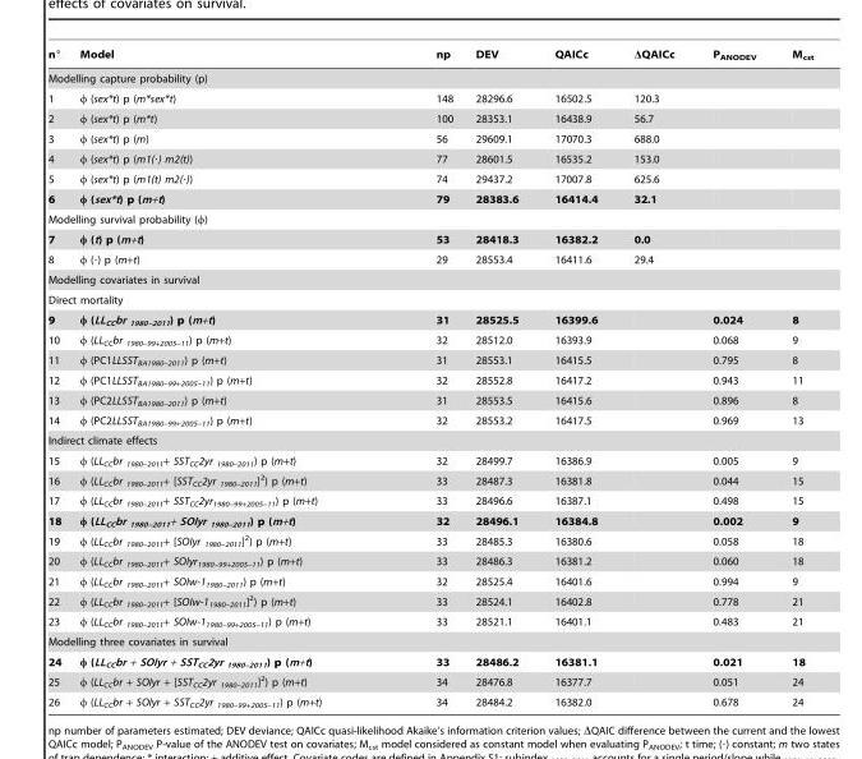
<table><thead><tr><td>n°</td><td>Model</td><td>np</td><td>DEV</td><td>QAICc</td><td>ΔQAICc</td><td>P<sub>ANODEV</sub></td><td>M<sub>cst</sub></td></tr></thead><tbody><tr><td colspan="8">Modelling capture probability (p)</td></tr><tr><td>1</td><td>φ (sex*t) p (m*sex*t)</td><td>148</td><td>28296.6</td><td>16502.5</td><td>120.3</td><td></td><td></td></tr><tr><td>2</td><td>φ (sex*t) p (m*t)</td><td>100</td><td>28353.1</td><td>16438.9</td><td>56.7</td><td></td><td></td></tr><tr><td>3</td><td>φ (sex*t) p (m)</td><td>56</td><td>29609.1</td><td>17070.3</td><td>688.0</td><td></td><td></td></tr><tr><td>4</td><td>φ (sex*t) p (m1(·) m2(t))</td><td>77</td><td>28601.5</td><td>16535.2</td><td>153.0</td><td></td><td></td></tr><tr><td>5</td><td>φ (sex*t) p (m1(t) m2(·))</td><td>74</td><td>29437.2</td><td>17007.8</td><td>625.6</td><td></td><td></td></tr><tr><td>6</td><td>φ (sex*t) p (m+t)</td><td>79</td><td>28383.6</td><td>16414.4</td><td>32.1</td><td></td><td></td></tr><tr><td colspan="8">Modelling survival probability (φ)</td></tr><tr><td>7</td><td>φ (t) p (m+t)</td><td>53</td><td>28418.3</td><td>16382.2</td><td>0.0</td><td></td><td></td></tr><tr><td>8</td><td>φ (·) p (m+t)</td><td>29</td><td>28553.4</td><td>16411.6</td><td>29.4</td><td></td><td></td></tr><tr><td colspan="8">Modelling covariates in survival</td></tr><tr><td colspan="8">Direct mortality</td></tr><tr><td>9</td><td>φ (LL<sub>CC</sub>br <sub>1980–2011</sub>) p (m+t)</td><td>31</td><td>28525.5</td><td>16399.6</td><td></td><td>0.024</td><td>8</td></tr><tr><td>10</td><td>φ (LL<sub>CC</sub>br <sub>1980–99+2005–11</sub>) p (m+t)</td><td>32</td><td>28512.0</td><td>16393.9</td><td></td><td>0.068</td><td>9</td></tr><tr><td>11</td><td>φ (PC1LLSST<sub>BA1980–2011</sub>) p (m+t)</td><td>31</td><td>28553.1</td><td>16415.5</td><td></td><td>0.795</td><td>8</td></tr><tr><td>12</td><td>φ (PC1LLSST<sub>BA1980–99+2005–11</sub>) p (m+t)</td><td>32</td><td>28552.8</td><td>16417.2</td><td></td><td>0.943</td><td>11</td></tr><tr><td>13</td><td>φ (PC2LLSST<sub>BA1980–2011</sub>) p (m+t)</td><td>31</td><td>28553.5</td><td>16415.6</td><td></td><td>0.896</td><td>8</td></tr><tr><td>14</td><td>φ (PC2LLSST<sub>BA1980–99+2005–11</sub>) p (m+t)</td><td>32</td><td>28553.2</td><td>16417.5</td><td></td><td>0.969</td><td>13</td></tr><tr><td colspan="8">Indirect climate effects</td></tr><tr><td>15</td><td>φ (LL<sub>CC</sub>br <sub>1980–2011</sub>+ SST<sub>CC</sub>2yr <sub>1980–2011</sub>) p (m+t)</td><td>32</td><td>28499.7</td><td>16386.9</td><td></td><td>0.005</td><td>9</td></tr><tr><td>16</td><td>φ (LL<sub>CC</sub>br <sub>1980–2011</sub>+ [SST<sub>CC</sub>2yr <sub>1980–2011</sub>]<sup>2</sup>) p (m+t)</td><td>33</td><td>28487.3</td><td>16381.8</td><td></td><td>0.044</td><td>15</td></tr><tr><td>17</td><td>φ (LL<sub>CC</sub>br <sub>1980–2011</sub>+ SST<sub>CC</sub>2yr<sub>1980–99+2005–11</sub>) p (m+t)</td><td>33</td><td>28496.6</td><td>16387.1</td><td></td><td>0.498</td><td>15</td></tr><tr><td>18</td><td>φ (LL<sub>CC</sub>br <sub>1980–2011</sub>+ SOIyr <sub>1980–2011</sub>) p (m+t)</td><td>32</td><td>28496.1</td><td>16384.8</td><td></td><td>0.002</td><td>9</td></tr><tr><td>19</td><td>φ (LL<sub>CC</sub>br <sub>1980–2011</sub>+ [SOIyr <sub>1980–2011</sub>]<sup>2</sup>) p (m+t)</td><td>33</td><td>28485.3</td><td>16380.6</td><td></td><td>0.058</td><td>18</td></tr><tr><td>20</td><td>φ (LL<sub>CC</sub>br <sub>1980–2011</sub>+ SOIyr<sub>1980–99+2005–11</sub>) p (m+t)</td><td>33</td><td>28486.3</td><td>16381.2</td><td></td><td>0.060</td><td>18</td></tr><tr><td>21</td><td>φ (LL<sub>CC</sub>br <sub>1980–2011</sub>+ SOIw-1<sub>1980–2011</sub>) p (m+t)</td><td>32</td><td>28525.4</td><td>16401.6</td><td></td><td>0.994</td><td>9</td></tr><tr><td>22</td><td>φ (LL<sub>CC</sub>br <sub>1980–2011</sub>+ [SOIw-1<sub>1980–2011</sub>]<sup>2</sup>) p (m+t)</td><td>33</td><td>28524.1</td><td>16402.8</td><td></td><td>0.778</td><td>21</td></tr><tr><td>23</td><td>φ (LL<sub>CC</sub>br <sub>1980–2011</sub>+ SOIw-1<sub>1980–99+2005–11</sub>) p (m+t)</td><td>33</td><td>28521.1</td><td>16401.1</td><td></td><td>0.483</td><td>21</td></tr><tr><td colspan="8">Modelling three covariates in survival</td></tr><tr><td>24</td><td>φ (LL<sub>CC</sub>br + SOIyr + SST<sub>CC</sub>2yr <sub>1980–2011</sub>) p (m+t)</td><td>33</td><td>28486.2</td><td>16381.1</td><td></td><td>0.021</td><td>18</td></tr><tr><td>25</td><td>φ (LL<sub>CC</sub>br + SOIyr + [SST<sub>CC</sub>2yr <sub>1980–2011</sub>]<sup>2</sup>) p (m+t)</td><td>34</td><td>28476.8</td><td>16377.7</td><td></td><td>0.051</td><td>24</td></tr><tr><td>26</td><td>φ (LL<sub>CC</sub>br + SOIyr + SST<sub>CC</sub>2yr <sub>1980–99+2005–11</sub>) p (m+t)</td><td>34</td><td>28484.2</td><td>16382.0</td><td></td><td>0.678</td><td>24</td></tr></tbody></table>